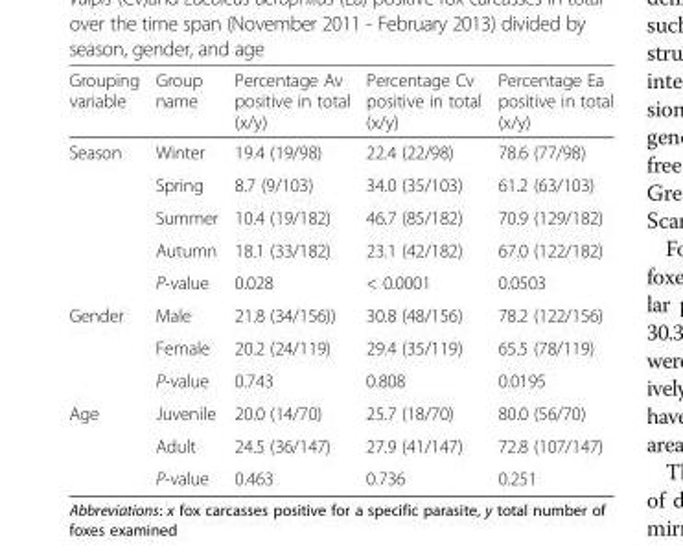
<table><thead><tr><td>Grouping variable</td><td>Group name</td><td>Percentage Av positive in total (x/y)</td><td>Percentage Cv positive in total (x/y)</td><td>Percentage Ea positive in total (x/y)</td></tr></thead><tbody><tr><td rowspan="5">Season</td><td>Winter</td><td>19.4 (19/98)</td><td>22.4 (22/98)</td><td>78.6 (77/98)</td></tr><tr><td>Spring</td><td>8.7 (9/103)</td><td>34.0 (35/103)</td><td>61.2 (63/103)</td></tr><tr><td>Summer</td><td>10.4 (19/182)</td><td>46.7 (85/182)</td><td>70.9 (129/182)</td></tr><tr><td>Autumn</td><td>18.1 (33/182)</td><td>23.1 (42/182)</td><td>67.0 (122/182)</td></tr><tr><td>P-value</td><td>0.028</td><td>&lt; 0.0001</td><td>0.0503</td></tr><tr><td rowspan="3">Gender</td><td>Male</td><td>21.8 (34/156))</td><td>30.8 (48/156)</td><td>78.2 (122/156)</td></tr><tr><td>Female</td><td>20.2 (24/119)</td><td>29.4 (35/119)</td><td>65.5 (78/119)</td></tr><tr><td>P-value</td><td>0.743</td><td>0.808</td><td>0.0195</td></tr><tr><td rowspan="3">Age</td><td>Juvenile</td><td>20.0 (14/70)</td><td>25.7 (18/70)</td><td>80.0 (56/70)</td></tr><tr><td>Adult</td><td>24.5 (36/147)</td><td>27.9 (41/147)</td><td>72.8 (107/147)</td></tr><tr><td>P-value</td><td>0.463</td><td>0.736</td><td>0.251</td></tr></tbody></table>